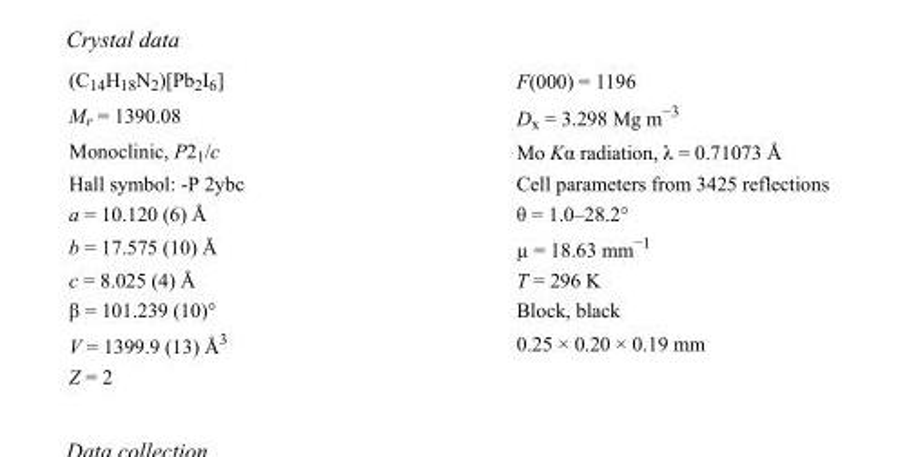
<table><tbody><tr><td>(C<sub>14</sub>H<sub>18</sub>N<sub>2</sub>)[Pb<sub>2</sub>I<sub>6</sub>]</td><td>F(000) = 1196</td></tr><tr><td>M<sub>r</sub> = 1390.08</td><td>D<sub>x</sub> = 3.298 Mg m<sup>−3</sup></td></tr><tr><td>Monoclinic, P2<sub>1</sub>/c</td><td>Mo Kα radiation, λ = 0.71073 Å</td></tr><tr><td>Hall symbol: -P 2ybc</td><td>Cell parameters from 3425 reflections</td></tr><tr><td>a = 10.120 (6) Å</td><td>θ = 1.0–28.2°</td></tr><tr><td>b = 17.575 (10) Å</td><td>µ = 18.63 mm<sup>−1</sup></td></tr><tr><td>c = 8.025 (4) Å</td><td>T = 296 K</td></tr><tr><td>β = 101.239 (10)°</td><td>Block, black</td></tr><tr><td>V = 1399.9 (13) Å<sup>3</sup></td><td>0.25 × 0.20 × 0.19 mm</td></tr><tr><td>Z = 2</td><td></td></tr></tbody></table>